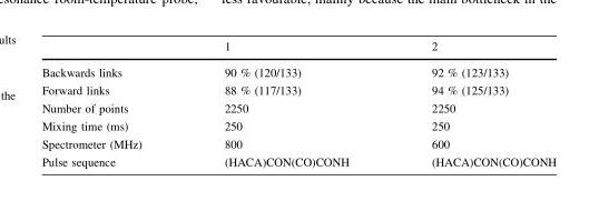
<table><thead><tr><td></td><td>1</td><td>2</td></tr></thead><tbody><tr><td>Backwards links</td><td>90 % (120/133)</td><td>92 % (123/133)</td></tr><tr><td>Forward links</td><td>88 % (117/133)</td><td>94 % (125/133)</td></tr><tr><td>Number of points</td><td>2250</td><td>2250</td></tr><tr><td>Mixing time (ms)</td><td>250</td><td>250</td></tr><tr><td>Spectrometer (MHz)</td><td>800</td><td>600</td></tr><tr><td>Pulse sequence</td><td>(HACA)CON(CO)CONH</td><td>(HACA)CON(CO)CONH</td></tr></tbody></table>